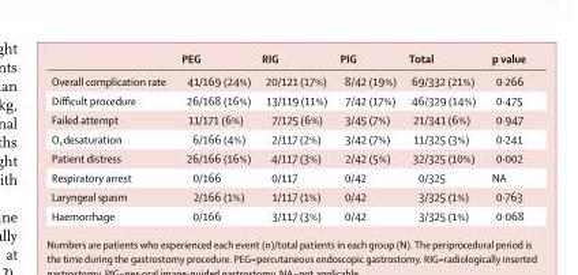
<table><thead><tr><td></td><td>PEG</td><td>RIG</td><td>PIG</td><td>Total</td><td>p value</td></tr></thead><tbody><tr><td>Overall complication rate</td><td>41/169 (24%)</td><td>20/121 (17%)</td><td>8/42 (19%)</td><td>69/332 (21%)</td><td>0·266</td></tr><tr><td>Diffi cult procedure</td><td>26/168 (16%)</td><td>13/119 (11%)</td><td>7/42 (17%)</td><td>46/329 (14%)</td><td>0·475</td></tr><tr><td>Failed attempt</td><td>11/171 (6%)</td><td>7/125 (6%)</td><td>3/45 (7%)</td><td>21/341 (6%)</td><td>0·947</td></tr><tr><td>O₂ desaturation</td><td>6/166 (4%)</td><td>2/117 (2%)</td><td>3/42 (7%)</td><td>11/325 (3%)</td><td>0·241</td></tr><tr><td>Patient distress</td><td>26/166 (16%)</td><td>4/117 (3%)</td><td>2/42 (5%)</td><td>32/325 (10%)</td><td>0·002</td></tr><tr><td>Respiratory arrest</td><td>0/166</td><td>0/117</td><td>0/42</td><td>0/325</td><td>NA</td></tr><tr><td>Laryngeal spasm</td><td>2/166 (1%)</td><td>1/117 (1%)</td><td>0/42</td><td>3/325 (1%)</td><td>0·763</td></tr><tr><td>Haemorrhage</td><td>0/166</td><td>3/117 (3%)</td><td>0/42</td><td>3/325 (1%)</td><td>0·068</td></tr></tbody></table>